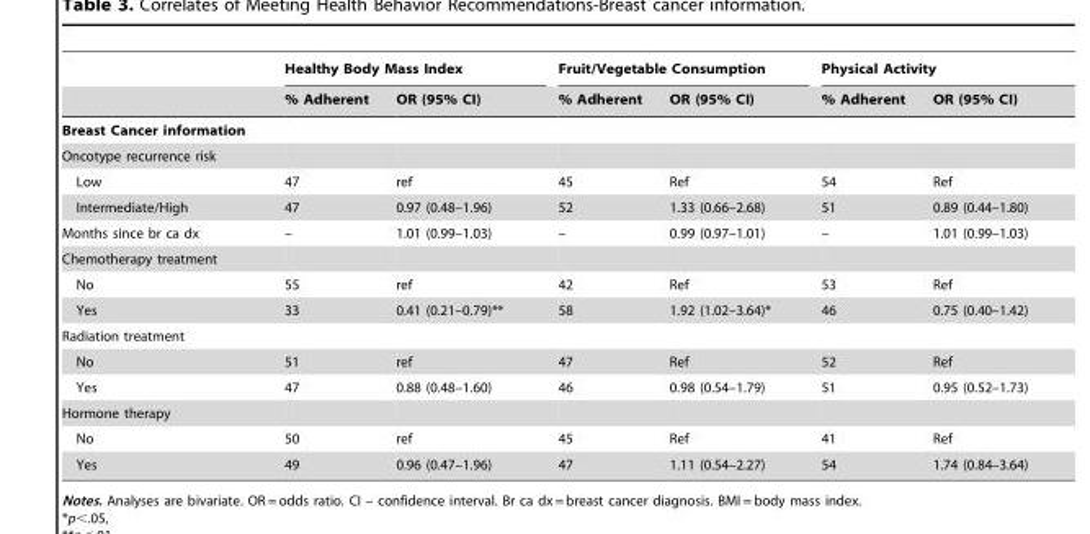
<table><thead><tr><td rowspan="2"></td><td colspan="2">Healthy Body Mass Index</td><td colspan="2">Fruit/Vegetable Consumption</td><td colspan="2">Physical Activity</td></tr><tr><td>% Adherent</td><td>OR (95% CI)</td><td>% Adherent</td><td>OR (95% CI)</td><td>% Adherent</td><td>OR (95% CI)</td></tr></thead><tbody><tr><td colspan="7">Breast Cancer information</td></tr><tr><td colspan="7">Oncotype recurrence risk</td></tr><tr><td>Low</td><td>47</td><td>ref</td><td>45</td><td>Ref</td><td>54</td><td>Ref</td></tr><tr><td>Intermediate/High</td><td>47</td><td>0.97 (0.48–1.96)</td><td>52</td><td>1.33 (0.66–2.68)</td><td>51</td><td>0.89 (0.44–1.80)</td></tr><tr><td>Months since br ca dx</td><td>–</td><td>1.01 (0.99–1.03)</td><td>–</td><td>0.99 (0.97–1.01)</td><td>–</td><td>1.01 (0.99–1.03)</td></tr><tr><td colspan="7">Chemotherapy treatment</td></tr><tr><td>No</td><td>55</td><td>ref</td><td>42</td><td>Ref</td><td>53</td><td>Ref</td></tr><tr><td>Yes</td><td>33</td><td>0.41 (0.21–0.79)**</td><td>58</td><td>1.92 (1.02–3.64)*</td><td>46</td><td>0.75 (0.40–1.42)</td></tr><tr><td colspan="7">Radiation treatment</td></tr><tr><td>No</td><td>51</td><td>ref</td><td>47</td><td>Ref</td><td>52</td><td>Ref</td></tr><tr><td>Yes</td><td>47</td><td>0.88 (0.48–1.60)</td><td>46</td><td>0.98 (0.54–1.79)</td><td>51</td><td>0.95 (0.52–1.73)</td></tr><tr><td colspan="7">Hormone therapy</td></tr><tr><td>No</td><td>50</td><td>ref</td><td>45</td><td>Ref</td><td>41</td><td>Ref</td></tr><tr><td>Yes</td><td>49</td><td>0.96 (0.47–1.96)</td><td>47</td><td>1.11 (0.54–2.27)</td><td>54</td><td>1.74 (0.84–3.64)</td></tr></tbody></table>